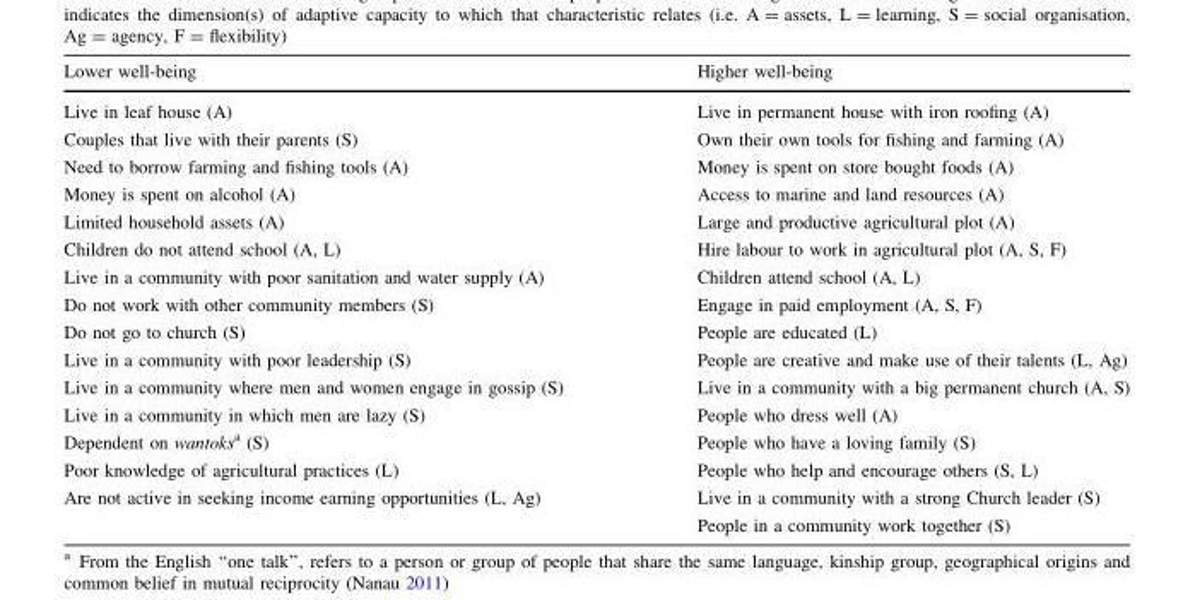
<table><thead><tr><td>Lower well-being</td><td>Higher well-being</td></tr></thead><tbody><tr><td>Live in leaf house (A) Couples that live with their parents (S) Need to borrow farming and fishing tools (A) Money is spent on alcohol (A) Limited household assets (A) Children do not attend school (A, L) Live in a community with poor sanitation and water supply (A) Do not work with other community members (S) Do not go to church (S) Live in a community with poor leadership (S) Live in a community where men and women engage in gossip (S) Live in a community in which men are lazy (S) Dependent on wantoks<sup>a</sup> (S) Poor knowledge of agricultural practices (L) Are not active in seeking income earning opportunities (L, Ag)</td><td>Live in permanent house with iron roofing (A) Own their own tools for fishing and farming (A) Money is spent on store bought foods (A) Access to marine and land resources (A) Large and productive agricultural plot (A) Hire labour to work in agricultural plot (A, S, F) Children attend school (A, L) Engage in paid employment (A, S, F) People are educated (L) People are creative and make use of their talents (L, Ag) Live in a community with a big permanent church (A, S) People who dress well (A) People who have a loving family (S) People who help and encourage others (S, L) Live in a community with a strong Church leader (S) People in a community work together (S)</td></tr></tbody></table>